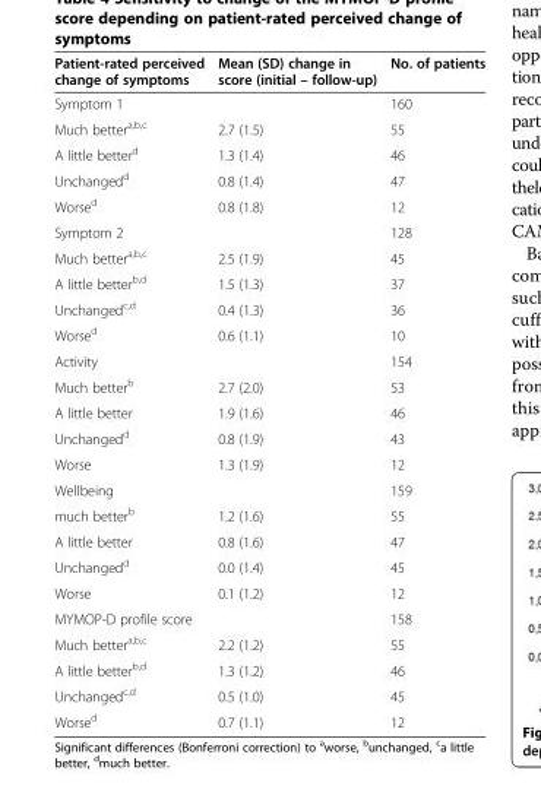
<table><thead><tr><td>Patient-rated perceived change of symptoms</td><td>Mean (SD) change in score (initial – follow-up)</td><td>No. of patients</td></tr></thead><tbody><tr><td>Symptom 1</td><td></td><td>160</td></tr><tr><td>Much better<sup>a,b,c</sup></td><td>2.7 (1.5)</td><td>55</td></tr><tr><td>A little better<sup>d</sup></td><td>1.3 (1.4)</td><td>46</td></tr><tr><td>Unchanged<sup>d</sup></td><td>0.8 (1.4)</td><td>47</td></tr><tr><td>Worse<sup>d</sup></td><td>0.8 (1.8)</td><td>12</td></tr><tr><td>Symptom 2</td><td></td><td>128</td></tr><tr><td>Much better<sup>a,b,c</sup></td><td>2.5 (1.9)</td><td>45</td></tr><tr><td>A little better<sup>b,d</sup></td><td>1.5 (1.3)</td><td>37</td></tr><tr><td>Unchanged<sup>c,d</sup></td><td>0.4 (1.3)</td><td>36</td></tr><tr><td>Worse<sup>d</sup></td><td>0.6 (1.1)</td><td>10</td></tr><tr><td>Activity</td><td></td><td>154</td></tr><tr><td>Much better<sup>b</sup></td><td>2.7 (2.0)</td><td>53</td></tr><tr><td>A little better</td><td>1.9 (1.6)</td><td>46</td></tr><tr><td>Unchanged<sup>d</sup></td><td>0.8 (1.9)</td><td>43</td></tr><tr><td>Worse</td><td>1.3 (1.9)</td><td>12</td></tr><tr><td>Wellbeing</td><td></td><td>159</td></tr><tr><td>much better<sup>b</sup></td><td>1.2 (1.6)</td><td>55</td></tr><tr><td>A little better</td><td>0.8 (1.6)</td><td>47</td></tr><tr><td>Unchanged<sup>d</sup></td><td>0.0 (1.4)</td><td>45</td></tr><tr><td>Worse</td><td>0.1 (1.2)</td><td>12</td></tr><tr><td>MYMOP-D profile score</td><td></td><td>158</td></tr><tr><td>Much better<sup>a,b,c</sup></td><td>2.2 (1.2)</td><td>55</td></tr><tr><td>A little better<sup>b,d</sup></td><td>1.3 (1.2)</td><td>46</td></tr><tr><td>Unchanged<sup>c,d</sup></td><td>0.5 (1.0)</td><td>45</td></tr><tr><td>Worse<sup>d</sup></td><td>0.7 (1.1)</td><td>12</td></tr></tbody></table>